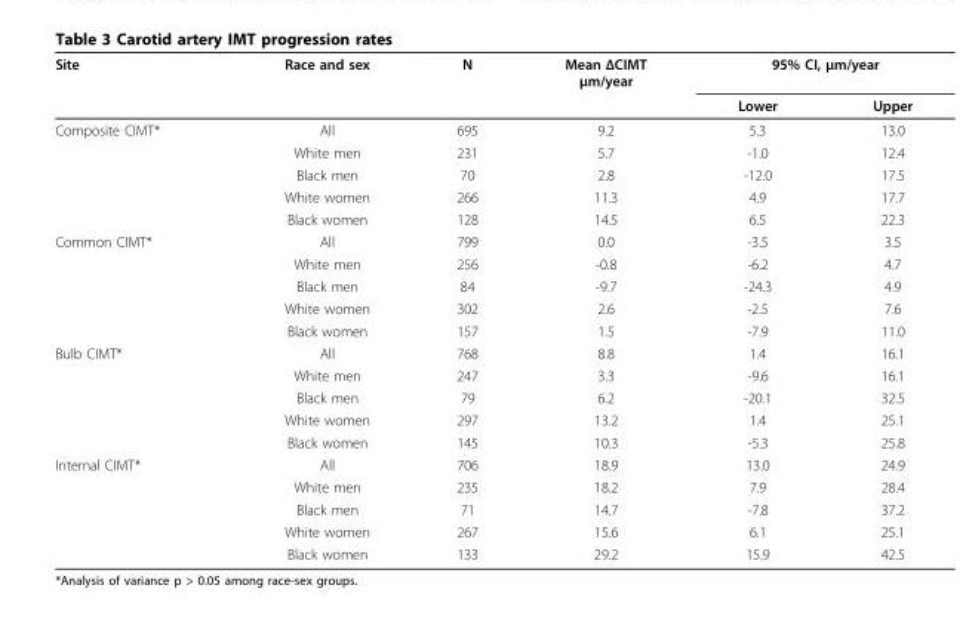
<table><thead><tr><td rowspan="2">Site</td><td rowspan="2">Race and sex</td><td rowspan="2">N</td><td rowspan="2">Mean ΔCIMT μm/year</td><td colspan="2">95% CI, μm/year</td></tr><tr><td>Lower</td><td>Upper</td></tr></thead><tbody><tr><td rowspan="5">Composite CIMT*</td><td>All</td><td>695</td><td>9.2</td><td>5.3</td><td>13.0</td></tr><tr><td>White men</td><td>231</td><td>5.7</td><td>-1.0</td><td>12.4</td></tr><tr><td>Black men</td><td>70</td><td>2.8</td><td>-12.0</td><td>17.5</td></tr><tr><td>White women</td><td>266</td><td>11.3</td><td>4.9</td><td>17.7</td></tr><tr><td>Black women</td><td>128</td><td>14.5</td><td>6.5</td><td>22.3</td></tr><tr><td rowspan="5">Common CIMT*</td><td>All</td><td>799</td><td>0.0</td><td>-3.5</td><td>3.5</td></tr><tr><td>White men</td><td>256</td><td>-0.8</td><td>-6.2</td><td>4.7</td></tr><tr><td>Black men</td><td>84</td><td>-9.7</td><td>-24.3</td><td>4.9</td></tr><tr><td>White women</td><td>302</td><td>2.6</td><td>-2.5</td><td>7.6</td></tr><tr><td>Black women</td><td>157</td><td>1.5</td><td>-7.9</td><td>11.0</td></tr><tr><td rowspan="5">Bulb CIMT*</td><td>All</td><td>768</td><td>8.8</td><td>1.4</td><td>16.1</td></tr><tr><td>White men</td><td>247</td><td>3.3</td><td>-9.6</td><td>16.1</td></tr><tr><td>Black men</td><td>79</td><td>6.2</td><td>-20.1</td><td>32.5</td></tr><tr><td>White women</td><td>297</td><td>13.2</td><td>1.4</td><td>25.1</td></tr><tr><td>Black women</td><td>145</td><td>10.3</td><td>-5.3</td><td>25.8</td></tr><tr><td rowspan="5">Internal CIMT*</td><td>All</td><td>706</td><td>18.9</td><td>13.0</td><td>24.9</td></tr><tr><td>White men</td><td>235</td><td>18.2</td><td>7.9</td><td>28.4</td></tr><tr><td>Black men</td><td>71</td><td>14.7</td><td>-7.8</td><td>37.2</td></tr><tr><td>White women</td><td>267</td><td>15.6</td><td>6.1</td><td>25.1</td></tr><tr><td>Black women</td><td>133</td><td>29.2</td><td>15.9</td><td>42.5</td></tr></tbody></table>